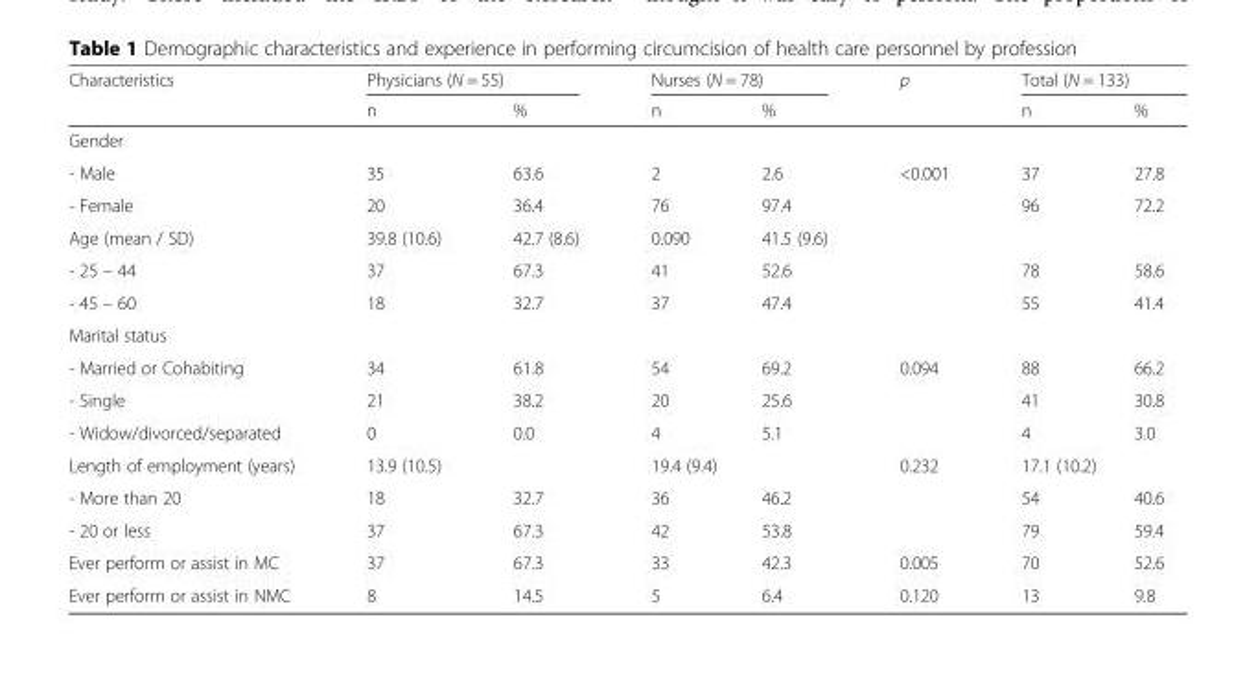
<table><thead><tr><td rowspan="2">Characteristics</td><td colspan="2">Physicians (N = 55)</td><td colspan="2">Nurses (N = 78)</td><td rowspan="2">p</td><td colspan="2">Total (N = 133)</td></tr><tr><td>n</td><td>%</td><td>n</td><td>%</td><td>n</td><td>%</td></tr></thead><tbody><tr><td colspan="8">Gender</td></tr><tr><td>- Male</td><td>35</td><td>63.6</td><td>2</td><td>2.6</td><td rowspan="2">&lt;0.001</td><td>37</td><td>27.8</td></tr><tr><td>- Female</td><td>20</td><td>36.4</td><td>76</td><td>97.4</td><td>96</td><td>72.2</td></tr><tr><td>Age (mean / SD)</td><td>39.8 (10.6)</td><td>42.7 (8.6)</td><td>0.090</td><td>41.5 (9.6)</td><td></td><td></td><td></td></tr><tr><td>- 25 – 44</td><td>37</td><td>67.3</td><td>41</td><td>52.6</td><td></td><td>78</td><td>58.6</td></tr><tr><td>- 45 – 60</td><td>18</td><td>32.7</td><td>37</td><td>47.4</td><td></td><td>55</td><td>41.4</td></tr><tr><td colspan="8">Marital status</td></tr><tr><td>- Married or Cohabiting</td><td>34</td><td>61.8</td><td>54</td><td>69.2</td><td rowspan="3">0.094</td><td>88</td><td>66.2</td></tr><tr><td>- Single</td><td>21</td><td>38.2</td><td>20</td><td>25.6</td><td>41</td><td>30.8</td></tr><tr><td>- Widow/divorced/separated</td><td>0</td><td>0.0</td><td>4</td><td>5.1</td><td>4</td><td>3.0</td></tr><tr><td>Length of employment (years)</td><td colspan="2">13.9 (10.5)</td><td colspan="2">19.4 (9.4)</td><td rowspan="3">0.232</td><td colspan="2">17.1 (10.2)</td></tr><tr><td>- More than 20</td><td>18</td><td>32.7</td><td>36</td><td>46.2</td><td>54</td><td>40.6</td></tr><tr><td>- 20 or less</td><td>37</td><td>67.3</td><td>42</td><td>53.8</td><td>79</td><td>59.4</td></tr><tr><td>Ever perform or assist in MC</td><td>37</td><td>67.3</td><td>33</td><td>42.3</td><td>0.005</td><td>70</td><td>52.6</td></tr><tr><td>Ever perform or assist in NMC</td><td>8</td><td>14.5</td><td>5</td><td>6.4</td><td>0.120</td><td>13</td><td>9.8</td></tr></tbody></table>